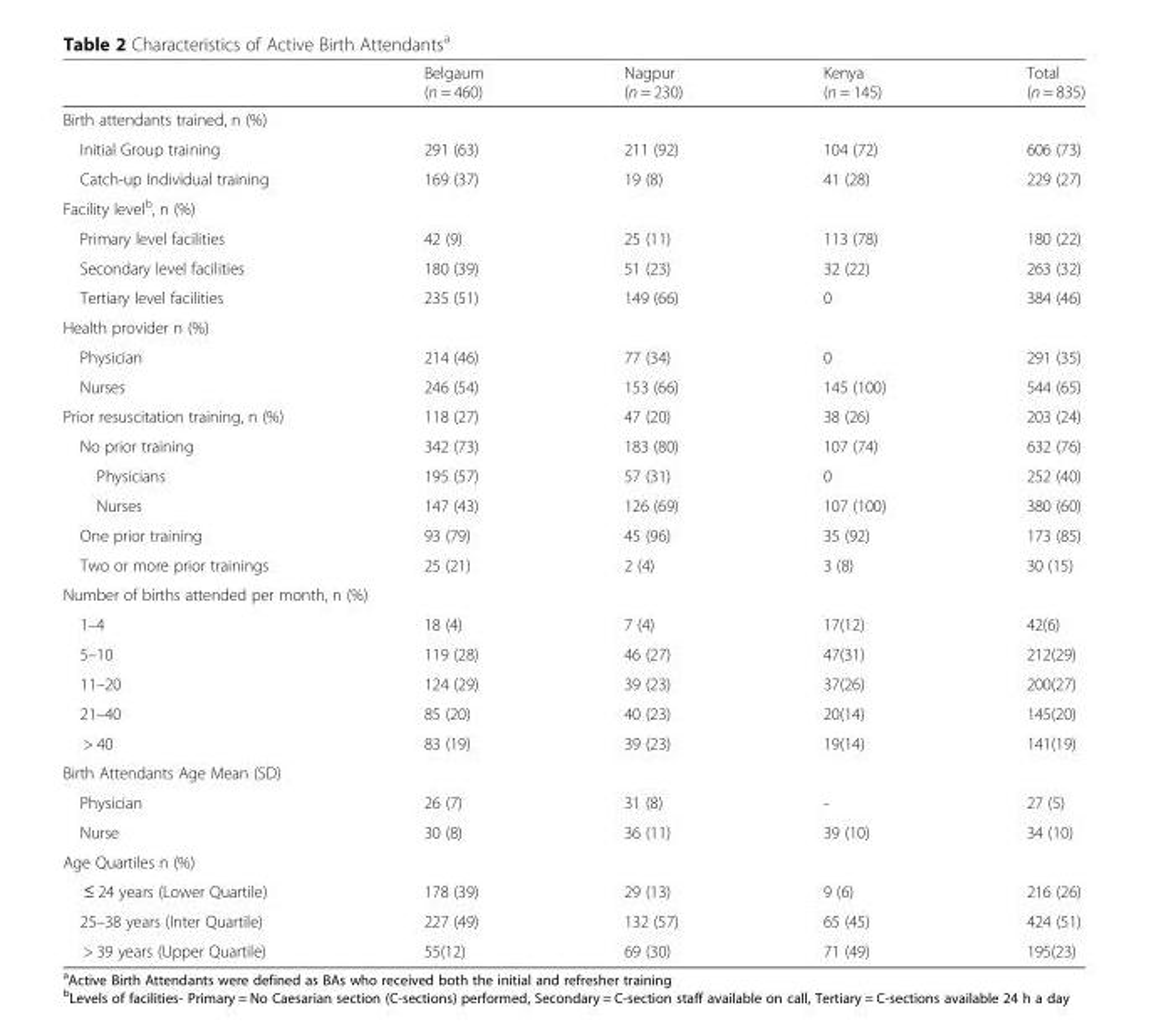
<table><thead><tr><td></td><td>Belgaum (n = 460)</td><td>Nagpur (n = 230)</td><td>Kenya (n = 145)</td><td>Total (n = 835)</td></tr></thead><tbody><tr><td colspan="5">Birth attendants trained, n (%)</td></tr><tr><td>Initial Group training</td><td>291 (63)</td><td>211 (92)</td><td>104 (72)</td><td>606 (73)</td></tr><tr><td>Catch-up Individual training</td><td>169 (37)</td><td>19 (8)</td><td>41 (28)</td><td>229 (27)</td></tr><tr><td colspan="5">Facility level<sup>b</sup>, n (%)</td></tr><tr><td>Primary level facilities</td><td>42 (9)</td><td>25 (11)</td><td>113 (78)</td><td>180 (22)</td></tr><tr><td>Secondary level facilities</td><td>180 (39)</td><td>51 (23)</td><td>32 (22)</td><td>263 (32)</td></tr><tr><td>Tertiary level facilities</td><td>235 (51)</td><td>149 (66)</td><td>0</td><td>384 (46)</td></tr><tr><td colspan="5">Health provider n (%)</td></tr><tr><td>Physician</td><td>214 (46)</td><td>77 (34)</td><td>0</td><td>291 (35)</td></tr><tr><td>Nurses</td><td>246 (54)</td><td>153 (66)</td><td>145 (100)</td><td>544 (65)</td></tr><tr><td>Prior resuscitation training, n (%)</td><td>118 (27)</td><td>47 (20)</td><td>38 (26)</td><td>203 (24)</td></tr><tr><td>No prior training</td><td>342 (73)</td><td>183 (80)</td><td>107 (74)</td><td>632 (76)</td></tr><tr><td>Physicians</td><td>195 (57)</td><td>57 (31)</td><td>0</td><td>252 (40)</td></tr><tr><td>Nurses</td><td>147 (43)</td><td>126 (69)</td><td>107 (100)</td><td>380 (60)</td></tr><tr><td>One prior training</td><td>93 (79)</td><td>45 (96)</td><td>35 (92)</td><td>173 (85)</td></tr><tr><td>Two or more prior trainings</td><td>25 (21)</td><td>2 (4)</td><td>3 (8)</td><td>30 (15)</td></tr><tr><td colspan="5">Number of births attended per month, n (%)</td></tr><tr><td>1–4</td><td>18 (4)</td><td>7 (4)</td><td>17(12)</td><td>42(6)</td></tr><tr><td>5–10</td><td>119 (28)</td><td>46 (27)</td><td>47(31)</td><td>212(29)</td></tr><tr><td>11–20</td><td>124 (29)</td><td>39 (23)</td><td>37(26)</td><td>200(27)</td></tr><tr><td>21–40</td><td>85 (20)</td><td>40 (23)</td><td>20(14)</td><td>145(20)</td></tr><tr><td>&gt; 40</td><td>83 (19)</td><td>39 (23)</td><td>19(14)</td><td>141(19)</td></tr><tr><td colspan="5">Birth Attendants Age Mean (SD)</td></tr><tr><td>Physician</td><td>26 (7)</td><td>31 (8)</td><td>-</td><td>27 (5)</td></tr><tr><td>Nurse</td><td>30 (8)</td><td>36 (11)</td><td>39 (10)</td><td>34 (10)</td></tr><tr><td colspan="5">Age Quartiles n (%)</td></tr><tr><td>≤ 24 years (Lower Quartile)</td><td>178 (39)</td><td>29 (13)</td><td>9 (6)</td><td>216 (26)</td></tr><tr><td>25–38 years (Inter Quartile)</td><td>227 (49)</td><td>132 (57)</td><td>65 (45)</td><td>424 (51)</td></tr><tr><td>&gt; 39 years (Upper Quartile)</td><td>55(12)</td><td>69 (30)</td><td>71 (49)</td><td>195(23)</td></tr></tbody></table>